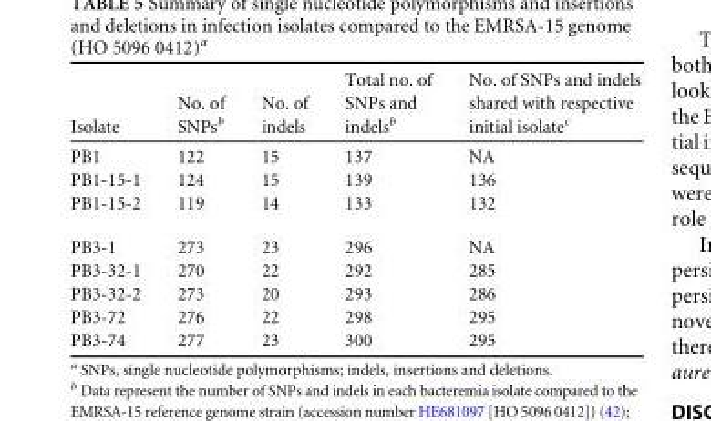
<table><thead><tr><td>Isolate</td><td>No. of SNPs<sup>b</sup></td><td>No. of indels</td><td>Total no. of SNPs and indels<sup>b</sup></td><td>No. of SNPs and indels shared with respective initial isolate<sup>c</sup></td></tr></thead><tbody><tr><td>PB1</td><td>122</td><td>15</td><td>137</td><td>NA</td></tr><tr><td>PB1-15-1</td><td>124</td><td>15</td><td>139</td><td>136</td></tr><tr><td>PB1-15-2</td><td>119</td><td>14</td><td>133</td><td>132</td></tr><tr><td>PB3-1</td><td>273</td><td>23</td><td>296</td><td>NA</td></tr><tr><td>PB3-32-1</td><td>270</td><td>22</td><td>292</td><td>285</td></tr><tr><td>PB3-32-2</td><td>273</td><td>20</td><td>293</td><td>286</td></tr><tr><td>PB3-72</td><td>276</td><td>22</td><td>298</td><td>295</td></tr><tr><td>PB3-74</td><td>277</td><td>23</td><td>300</td><td>295</td></tr></tbody></table>